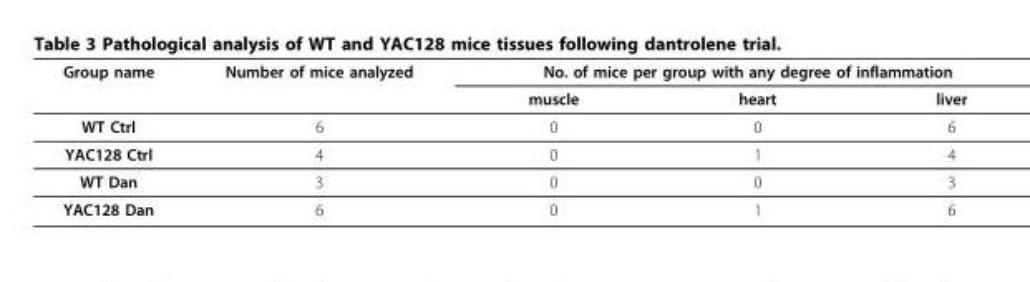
<table><thead><tr><td rowspan="2">Group name</td><td rowspan="2">Number of mice analyzed</td><td colspan="3">No. of mice per group with any degree of inflammation</td></tr><tr><td>muscle</td><td>heart</td><td>liver</td></tr></thead><tbody><tr><td>WT Ctrl</td><td>6</td><td>0</td><td>0</td><td>6</td></tr><tr><td>YAC128 Ctrl</td><td>4</td><td>0</td><td>1</td><td>4</td></tr><tr><td>WT Dan</td><td>3</td><td>0</td><td>0</td><td>3</td></tr><tr><td>YAC128 Dan</td><td>6</td><td>0</td><td>1</td><td>6</td></tr></tbody></table>